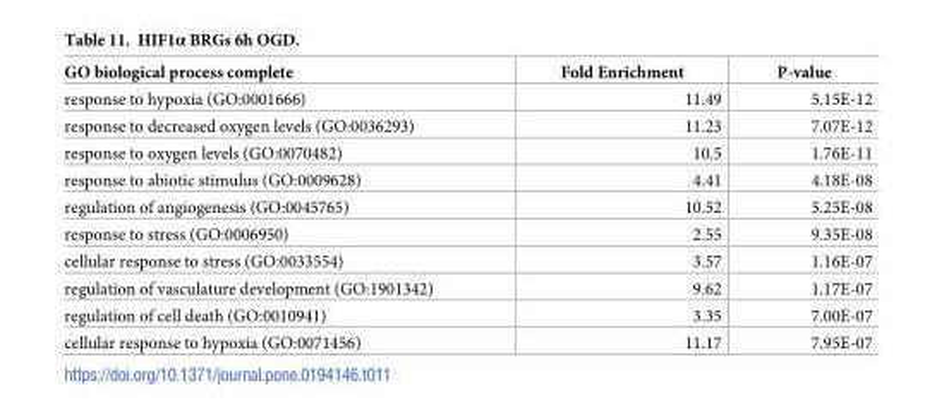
<table><thead><tr><td>GO biological process complete</td><td>Fold Enrichment</td><td>P-value</td></tr></thead><tbody><tr><td>response to hypoxia (GO:0001666)</td><td>11.49</td><td>5.15E-12</td></tr><tr><td>response to decreased oxygen levels (GO:0036293)</td><td>11.23</td><td>7.07E-12</td></tr><tr><td>response to oxygen levels (GO:0070482)</td><td>10.5</td><td>1.76E-11</td></tr><tr><td>response to abiotic stimulus (GO:0009628)</td><td>4.41</td><td>4.18E-08</td></tr><tr><td>regulation of angiogenesis (GO:0045765)</td><td>10.52</td><td>5.25E-08</td></tr><tr><td>response to stress (GO:0006950)</td><td>2.55</td><td>9.35E-08</td></tr><tr><td>cellular response to stress (GO:0033554)</td><td>3.57</td><td>1.16E-07</td></tr><tr><td>regulation of vasculature development (GO:1901342)</td><td>9.62</td><td>1.17E-07</td></tr><tr><td>regulation of cell death (GO:0010941)</td><td>3.35</td><td>7.00E-07</td></tr><tr><td>cellular response to hypoxia (GO:0071456)</td><td>11.17</td><td>7.95E-07</td></tr></tbody></table>